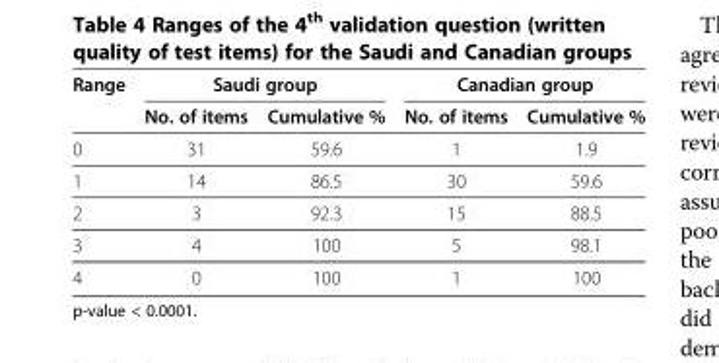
<table><thead><tr><td rowspan="2">Range</td><td colspan="2">Saudi group</td><td colspan="2">Canadian group</td></tr><tr><td>No. of items</td><td>Cumulative %</td><td>No. of items</td><td>Cumulative %</td></tr></thead><tbody><tr><td>0</td><td>31</td><td>59.6</td><td>1</td><td>1.9</td></tr><tr><td>1</td><td>14</td><td>86.5</td><td>30</td><td>59.6</td></tr><tr><td>2</td><td>3</td><td>92.3</td><td>15</td><td>88.5</td></tr><tr><td>3</td><td>4</td><td>100</td><td>5</td><td>98.1</td></tr><tr><td>4</td><td>0</td><td>100</td><td>1</td><td>100</td></tr></tbody></table>